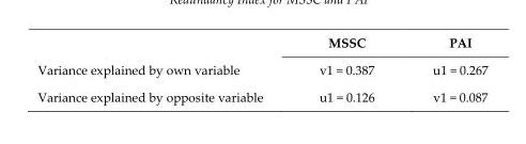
<table><thead><tr><td></td><td>MSSC</td><td>PAI</td></tr></thead><tbody><tr><td>Variance explained by own variable</td><td>v1 = 0.387</td><td>u1 = 0.267</td></tr><tr><td>Variance explained by opposite variable</td><td>u1 = 0.126</td><td>v1 = 0.087</td></tr></tbody></table>